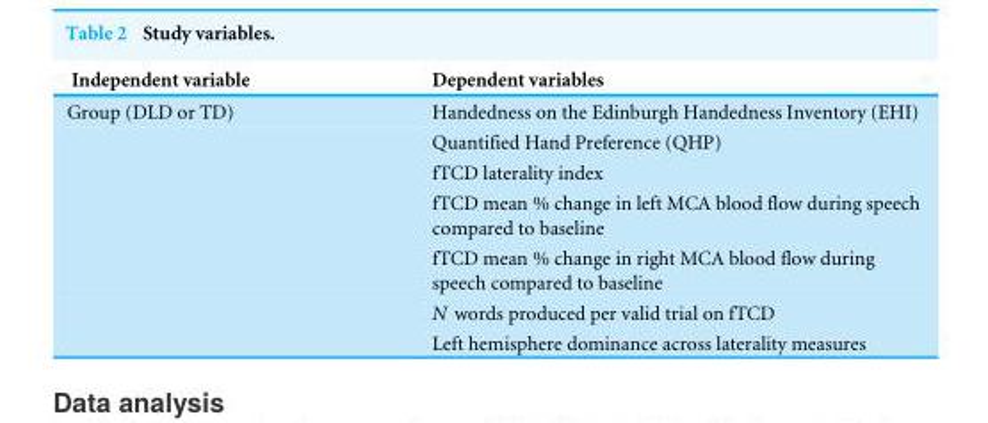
<table><thead><tr><td>Independent variable</td><td>Dependent variables</td></tr></thead><tbody><tr><td rowspan="7">Group (DLD or TD)</td><td>Handedness on the Edinburgh Handedness Inventory (EHI)</td></tr><tr><td>Quantified Hand Preference (QHP)</td></tr><tr><td>fTCD laterality index</td></tr><tr><td>fTCD mean % change in left MCA blood flow during speech compared to baseline</td></tr><tr><td>fTCD mean % change in right MCA blood flow during speech compared to baseline</td></tr><tr><td>N words produced per valid trial on fTCD</td></tr><tr><td>Left hemisphere dominance across laterality measures</td></tr></tbody></table>